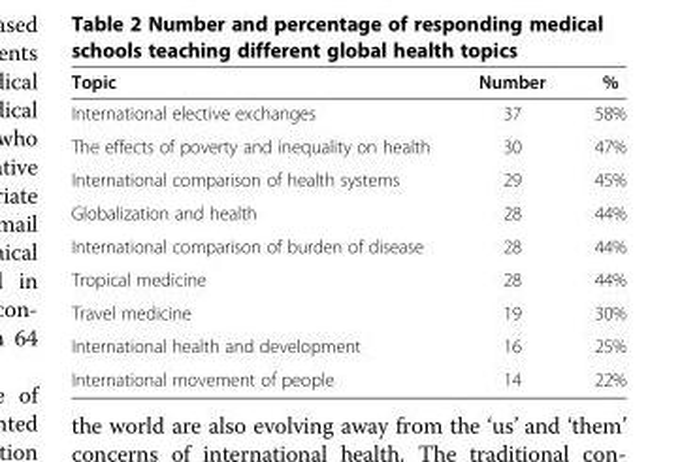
<table><thead><tr><td>Topic</td><td>Number</td><td>%</td></tr></thead><tbody><tr><td>International elective exchanges</td><td>37</td><td>58%</td></tr><tr><td>The effects of poverty and inequality on health</td><td>30</td><td>47%</td></tr><tr><td>International comparison of health systems</td><td>29</td><td>45%</td></tr><tr><td>Globalization and health</td><td>28</td><td>44%</td></tr><tr><td>International comparison of burden of disease</td><td>28</td><td>44%</td></tr><tr><td>Tropical medicine</td><td>28</td><td>44%</td></tr><tr><td>Travel medicine</td><td>19</td><td>30%</td></tr><tr><td>International health and development</td><td>16</td><td>25%</td></tr><tr><td>International movement of people</td><td>14</td><td>22%</td></tr></tbody></table>